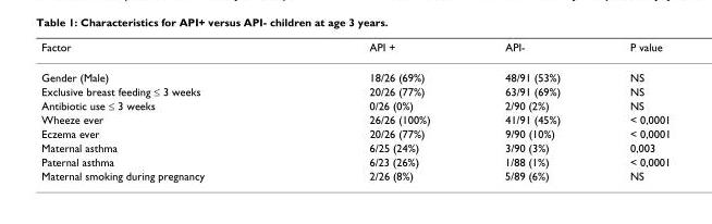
<table><thead><tr><td>Factor</td><td>API +</td><td>API-</td><td>P value</td></tr></thead><tbody><tr><td>Gender (Male)</td><td>18/26 (69%)</td><td>48/91 (53%)</td><td>NS</td></tr><tr><td>Exclusive breast feeding ≤ 3 weeks</td><td>20/26 (77%)</td><td>63/91 (69%)</td><td>NS</td></tr><tr><td>Antibiotic use ≤ 3 weeks</td><td>0/26 (0%)</td><td>2/90 (2%)</td><td>NS</td></tr><tr><td>Wheeze ever</td><td>26/26 (100%)</td><td>41/91 (45%)</td><td>&lt; 0,0001</td></tr><tr><td>Eczema ever</td><td>20/26 (77%)</td><td>9/90 (10%)</td><td>&lt; 0,0001</td></tr><tr><td>Maternal asthma</td><td>6/25 (24%)</td><td>3/90 (3%)</td><td>0,003</td></tr><tr><td>Paternal asthma</td><td>6/23 (26%)</td><td>1/88 (1%)</td><td>&lt; 0,0001</td></tr><tr><td>Maternal smoking during pregnancy</td><td>2/26 (8%)</td><td>5/89 (6%)</td><td>NS</td></tr></tbody></table>